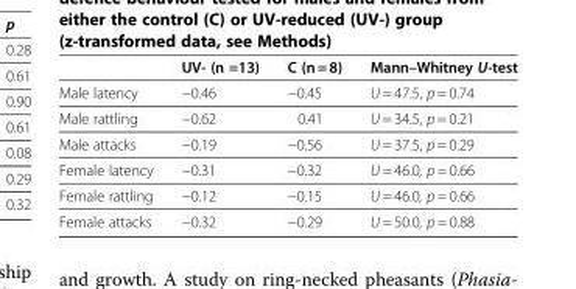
<table><thead><tr><td></td><td>UV- (n =13)</td><td>C (n = 8)</td><td>Mann–Whitney U-test</td></tr></thead><tbody><tr><td>Male latency</td><td>−0.46</td><td>−0.45</td><td>U = 47.5, p = 0.74</td></tr><tr><td>Male rattling</td><td>−0.62</td><td>0.41</td><td>U = 34.5, p = 0.21</td></tr><tr><td>Male attacks</td><td>−0.19</td><td>−0.56</td><td>U = 37.5, p = 0.29</td></tr><tr><td>Female latency</td><td>−0.31</td><td>−0.32</td><td>U = 46.0, p = 0.66</td></tr><tr><td>Female rattling</td><td>−0.12</td><td>−0.15</td><td>U = 46.0, p = 0.66</td></tr><tr><td>Female attacks</td><td>−0.32</td><td>−0.29</td><td>U = 50.0, p = 0.88</td></tr></tbody></table>